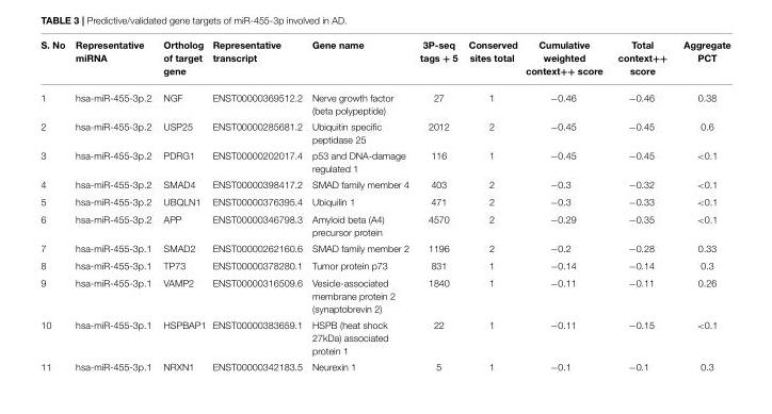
<table><thead><tr><td>S. No</td><td>Representative miRNA</td><td>Ortholog of target gene</td><td>Representative transcript</td><td>Gene name</td><td>3P-seq tags + 5</td><td>Conserved sites total</td><td>Cumulative weighted context++ score</td><td>Total context++ score</td><td>Aggregate PCT</td></tr></thead><tbody><tr><td>1</td><td>hsa-miR-455-3p.2</td><td>NGF</td><td>ENST00000369512.2</td><td>Nerve growth factor (beta polypeptide)</td><td>27</td><td>1</td><td>−0.46</td><td>−0.46</td><td>0.38</td></tr><tr><td>2</td><td>hsa-miR-455-3p.2</td><td>USP25</td><td>ENST00000285681.2</td><td>Ubiquitin specific peptidase 25</td><td>2012</td><td>2</td><td>−0.45</td><td>−0.45</td><td>0.6</td></tr><tr><td>3</td><td>hsa-miR-455-3p.2</td><td>PDRG1</td><td>ENST00000202017.4</td><td>p53 and DNA-damage regulated 1</td><td>116</td><td>1</td><td>−0.45</td><td>−0.45</td><td>&lt;0.1</td></tr><tr><td>4</td><td>hsa-miR-455-3p.2</td><td>SMAD4</td><td>ENST00000398417.2</td><td>SMAD family member 4</td><td>403</td><td>2</td><td>−0.3</td><td>−0.32</td><td>&lt;0.1</td></tr><tr><td>5</td><td>hsa-miR-455-3p.2</td><td>UBQLN1</td><td>ENST00000376395.4</td><td>Ubiquilin 1</td><td>471</td><td>2</td><td>−0.3</td><td>−0.33</td><td>&lt;0.1</td></tr><tr><td>6</td><td>hsa-miR-455-3p.2</td><td>APP</td><td>ENST00000346798.3</td><td>Amyloid beta (A4) precursor protein</td><td>4570</td><td>2</td><td>−0.29</td><td>−0.35</td><td>&lt;0.1</td></tr><tr><td>7</td><td>hsa-miR-455-3p.1</td><td>SMAD2</td><td>ENST00000262160.6</td><td>SMAD family member 2</td><td>1196</td><td>2</td><td>−0.2</td><td>−0.28</td><td>0.33</td></tr><tr><td>8</td><td>hsa-miR-455-3p.1</td><td>TP73</td><td>ENST00000378280.1</td><td>Tumor protein p73</td><td>831</td><td>1</td><td>−0.14</td><td>−0.14</td><td>0.3</td></tr><tr><td>9</td><td>hsa-miR-455-3p.1</td><td>VAMP2</td><td>ENST00000316509.6</td><td>Vesicle-associated membrane protein 2 (synaptobrevin 2)</td><td>1840</td><td>1</td><td>−0.11</td><td>−0.11</td><td>0.26</td></tr><tr><td>10</td><td>hsa-miR-455-3p.1</td><td>HSPBAP1</td><td>ENST00000383659.1</td><td>HSPB (heat shock 27kDa) associated protein 1</td><td>22</td><td>1</td><td>−0.11</td><td>−0.15</td><td>&lt;0.1</td></tr><tr><td>11</td><td>hsa-miR-455-3p.1</td><td>NRXN1</td><td>ENST00000342183.5</td><td>Neurexin 1</td><td>5</td><td>1</td><td>−0.1</td><td>−0.1</td><td>0.3</td></tr></tbody></table>